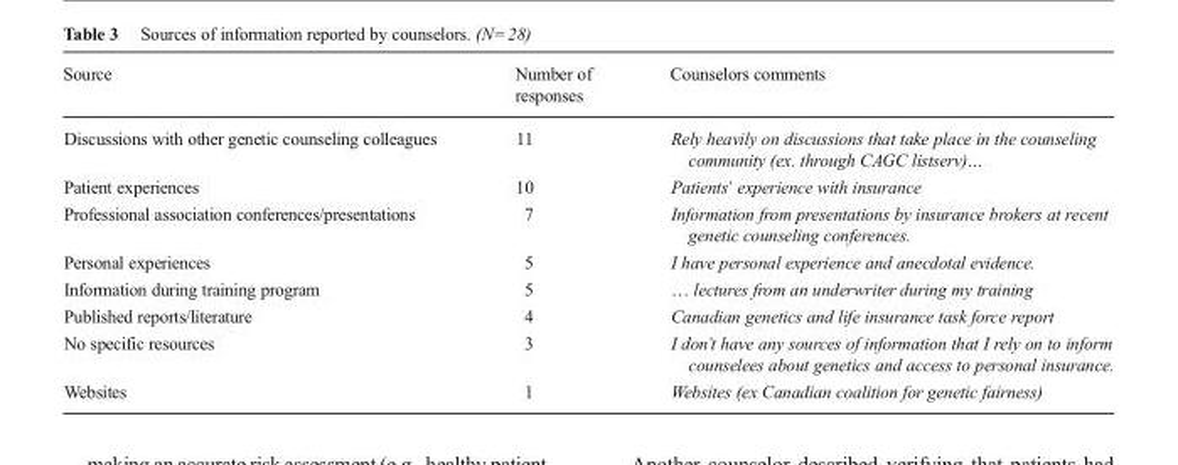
<table><thead><tr><td>Source</td><td>Number of responses</td><td>Counselors comments</td></tr></thead><tbody><tr><td>Discussions with other genetic counseling colleagues</td><td>11</td><td>Rely heavily on discussions that take place in the counseling community (ex. through CAGC listserv)…</td></tr><tr><td>Patient experiences</td><td>10</td><td>Patients’ experience with insurance</td></tr><tr><td>Professional association conferences/presentations</td><td>7</td><td>Information from presentations by insurance brokers at recent genetic counseling conferences.</td></tr><tr><td>Personal experiences</td><td>5</td><td>I have personal experience and anecdotal evidence.</td></tr><tr><td>Information during training program</td><td>5</td><td>… lectures from an underwriter during my training</td></tr><tr><td>Published reports/literature</td><td>4</td><td>Canadian genetics and life insurance task force report</td></tr><tr><td>No specific resources</td><td>3</td><td>I don’t have any sources of information that I rely on to inform counselees about genetics and access to personal insurance.</td></tr><tr><td>Websites</td><td>1</td><td>Websites (ex Canadian coalition for genetic fairness)</td></tr></tbody></table>